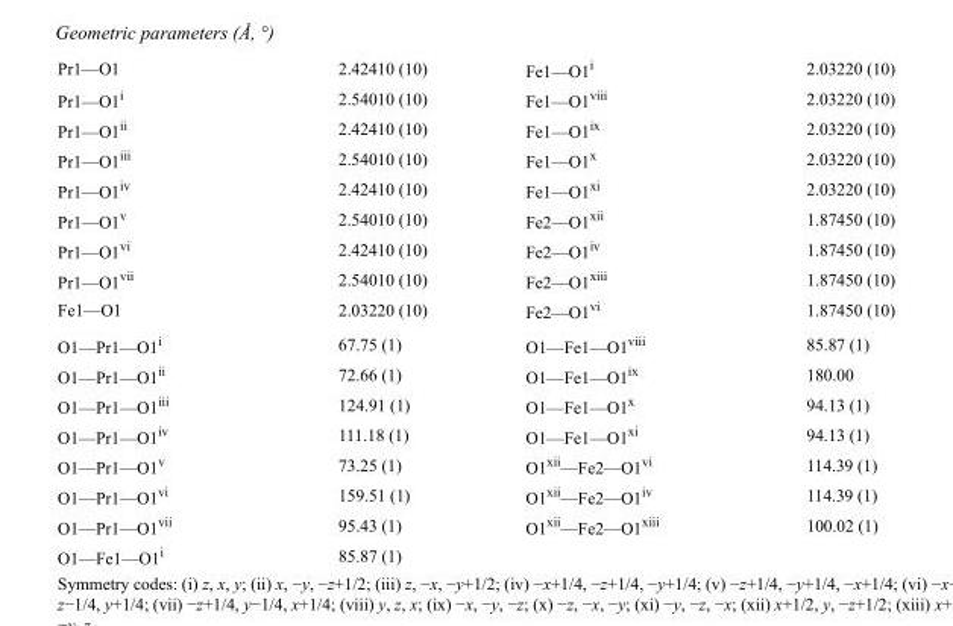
<table><tbody><tr><td>Pr1—O1</td><td>2.42410 (10)</td><td>Fe1—O1<sup>i</sup></td><td>2.03220 (10)</td></tr><tr><td>Pr1—O1<sup>i</sup></td><td>2.54010 (10)</td><td>Fe1—O1<sup>viii</sup></td><td>2.03220 (10)</td></tr><tr><td>Pr1—O1<sup>ii</sup></td><td>2.42410 (10)</td><td>Fe1—O1<sup>ix</sup></td><td>2.03220 (10)</td></tr><tr><td>Pr1—O1<sup>iii</sup></td><td>2.54010 (10)</td><td>Fe1—O1<sup>x</sup></td><td>2.03220 (10)</td></tr><tr><td>Pr1—O1<sup>iv</sup></td><td>2.42410 (10)</td><td>Fe1—O1<sup>xi</sup></td><td>2.03220 (10)</td></tr><tr><td>Pr1—O1<sup>v</sup></td><td>2.54010 (10)</td><td>Fe2—O1<sup>xii</sup></td><td>1.87450 (10)</td></tr><tr><td>Pr1—O1<sup>vi</sup></td><td>2.42410 (10)</td><td>Fe2—O1<sup>iv</sup></td><td>1.87450 (10)</td></tr><tr><td>Pr1—O1<sup>vii</sup></td><td>2.54010 (10)</td><td>Fe2—O1<sup>xiii</sup></td><td>1.87450 (10)</td></tr><tr><td>Fe1—O1</td><td>2.03220 (10)</td><td>Fe2—O1<sup>vi</sup></td><td>1.87450 (10)</td></tr><tr><td>O1—Pr1—O1<sup>i</sup></td><td>67.75 (1)</td><td>O1—Fe1—O1<sup>viii</sup></td><td>85.87 (1)</td></tr><tr><td>O1—Pr1—O1<sup>ii</sup></td><td>72.66 (1)</td><td>O1—Fe1—O1<sup>ix</sup></td><td>180.00</td></tr><tr><td>O1—Pr1—O1<sup>iii</sup></td><td>124.91 (1)</td><td>O1—Fe1—O1<sup>x</sup></td><td>94.13 (1)</td></tr><tr><td>O1—Pr1—O1<sup>iv</sup></td><td>111.18 (1)</td><td>O1—Fe1—O1<sup>xi</sup></td><td>94.13 (1)</td></tr><tr><td>O1—Pr1—O1<sup>v</sup></td><td>73.25 (1)</td><td>O1<sup>xii</sup>—Fe2—O1<sup>vi</sup></td><td>114.39 (1)</td></tr><tr><td>O1—Pr1—O1<sup>vi</sup></td><td>159.51 (1)</td><td>O1<sup>xii</sup>—Fe2—O1<sup>iv</sup></td><td>114.39 (1)</td></tr><tr><td>O1—Pr1—O1<sup>vii</sup></td><td>95.43 (1)</td><td>O1<sup>xii</sup>—Fe2—O1<sup>xiii</sup></td><td>100.02 (1)</td></tr><tr><td>O1—Fe1—O1<sup>i</sup></td><td>85.87 (1)</td><td></td><td></td></tr></tbody></table>